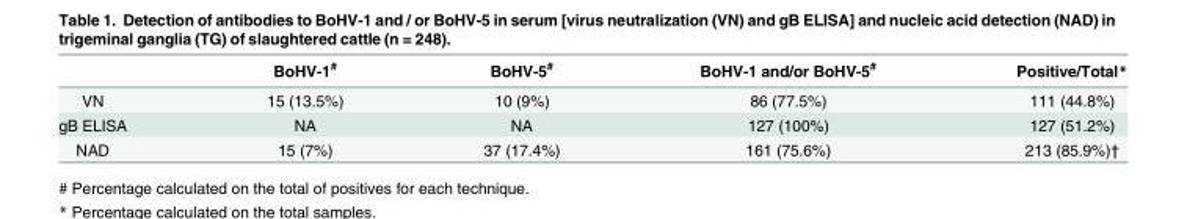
<table><thead><tr><td></td><td>BoHV-1<sup>#</sup></td><td>BoHV-5<sup>#</sup></td><td>BoHV-1 and/or BoHV-5<sup>#</sup></td><td>Positive/Total*</td></tr></thead><tbody><tr><td>VN</td><td>15 (13.5%)</td><td>10 (9%)</td><td>86 (77.5%)</td><td>111 (44.8%)</td></tr><tr><td>gB ELISA</td><td>NA</td><td>NA</td><td>127 (100%)</td><td>127 (51.2%)</td></tr><tr><td>NAD</td><td>15 (7%)</td><td>37 (17.4%)</td><td>161 (75.6%)</td><td>213 (85.9%)†</td></tr></tbody></table>